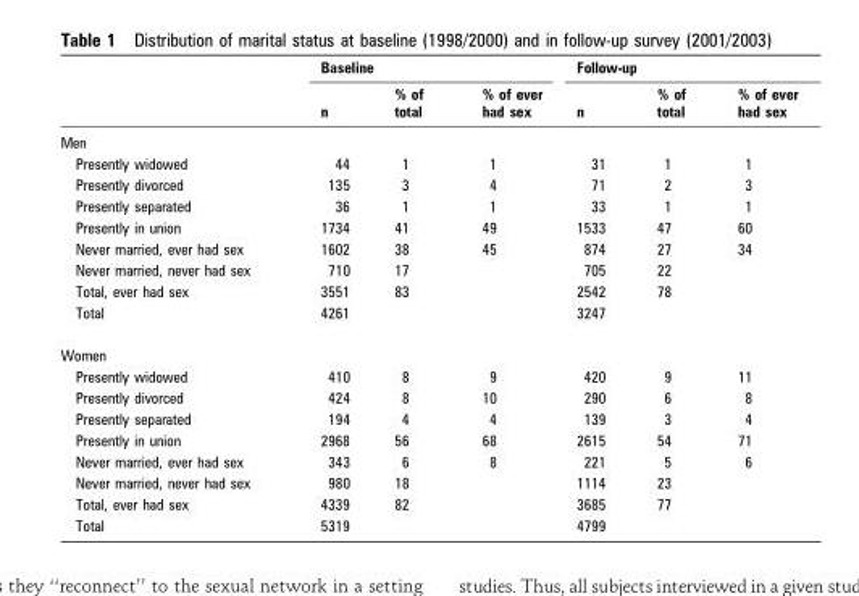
<table><thead><tr><td rowspan="2"></td><td colspan="3">Baseline</td><td colspan="3">Follow-up</td></tr><tr><td>n</td><td>% of total</td><td>% of ever had sex</td><td>n</td><td>% of total</td><td>% of ever had sex</td></tr></thead><tbody><tr><td colspan="7">Men</td></tr><tr><td>Presently widowed</td><td>44</td><td>1</td><td>1</td><td>31</td><td>1</td><td>1</td></tr><tr><td>Presently divorced</td><td>135</td><td>3</td><td>4</td><td>71</td><td>2</td><td>3</td></tr><tr><td>Presently separated</td><td>36</td><td>1</td><td>1</td><td>33</td><td>1</td><td>1</td></tr><tr><td>Presently in union</td><td>1734</td><td>41</td><td>49</td><td>1533</td><td>47</td><td>60</td></tr><tr><td>Never married, ever had sex</td><td>1602</td><td>38</td><td>45</td><td>874</td><td>27</td><td>34</td></tr><tr><td>Never married, never had sex</td><td>710</td><td>17</td><td></td><td>705</td><td>22</td><td></td></tr><tr><td>Total, ever had sex</td><td>3551</td><td>83</td><td></td><td>2542</td><td>78</td><td></td></tr><tr><td>Total</td><td>4261</td><td></td><td></td><td>3247</td><td></td><td></td></tr><tr><td colspan="7">Women</td></tr><tr><td>Presently widowed</td><td>410</td><td>8</td><td>9</td><td>420</td><td>9</td><td>11</td></tr><tr><td>Presently divorced</td><td>424</td><td>8</td><td>10</td><td>290</td><td>6</td><td>8</td></tr><tr><td>Presently separated</td><td>194</td><td>4</td><td>4</td><td>139</td><td>3</td><td>4</td></tr><tr><td>Presently in union</td><td>2968</td><td>56</td><td>68</td><td>2615</td><td>54</td><td>71</td></tr><tr><td>Never married, ever had sex</td><td>343</td><td>6</td><td>8</td><td>221</td><td>5</td><td>6</td></tr><tr><td>Never married, never had sex</td><td>980</td><td>18</td><td></td><td>1114</td><td>23</td><td></td></tr><tr><td>Total, ever had sex</td><td>4339</td><td>82</td><td></td><td>3685</td><td>77</td><td></td></tr><tr><td>Total</td><td>5319</td><td></td><td></td><td>4799</td><td></td><td></td></tr></tbody></table>